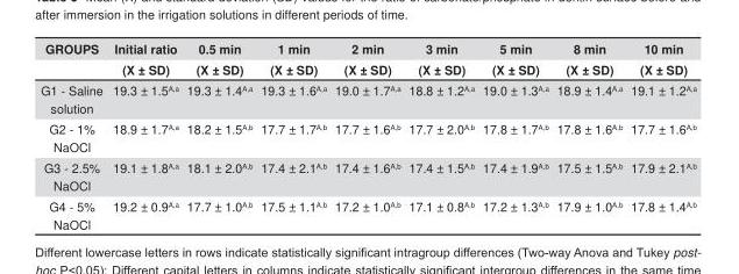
<table><thead><tr><td rowspan="2">GROUPS</td><td rowspan="2">Initial ratio (X ± SD)</td><td rowspan="2">0.5 min (X ± SD)</td><td rowspan="2">1 min (X ± SD)</td><td rowspan="2">2 min (X ± SD)</td><td rowspan="2">3 min (X ± SD)</td><td rowspan="2">5 min (X ± SD)</td><td rowspan="2">8 min (X ± SD)</td><td rowspan="2">10 min (X ± SD)</td></tr><tr></tr></thead><tbody><tr><td>G1 - Saline solution</td><td>19.3 ± 1.5<sup>A,a</sup></td><td>19.3 ± 1.4<sup>A,a</sup></td><td>19.3 ± 1.6<sup>A,a</sup></td><td>19.0 ± 1.7<sup>A,a</sup></td><td>18.8 ± 1.2<sup>A,a</sup></td><td>19.0 ± 1.3<sup>A,a</sup></td><td>18.9 ± 1.4<sup>A,a</sup></td><td>19.1 ± 1.2<sup>A,a</sup></td></tr><tr><td>G2 - 1% NaOCl</td><td>18.9 ± 1.7<sup>A,a</sup></td><td>18.2 ± 1.5<sup>A,b</sup></td><td>17.7 ± 1.7<sup>A,b</sup></td><td>17.7 ± 1.6<sup>A,b</sup></td><td>17.7 ± 2.0<sup>A,b</sup></td><td>17.8 ± 1.7<sup>A,b</sup></td><td>17.8 ± 1.6<sup>A,b</sup></td><td>17.7 ± 1.6<sup>A,b</sup></td></tr><tr><td>G3 - 2.5% NaOCl</td><td>19.1 ± 1.8<sup>A,a</sup></td><td>18.1 ± 2.0<sup>A,b</sup></td><td>17.4 ± 2.1<sup>A,b</sup></td><td>17.4 ± 1.6<sup>A,b</sup></td><td>17.4 ± 1.5<sup>A,b</sup></td><td>17.4 ± 1.9<sup>A,b</sup></td><td>17.5 ± 1.5<sup>A,b</sup></td><td>17.9 ± 2.1<sup>A,b</sup></td></tr><tr><td>G4 - 5% NaOCl</td><td>19.2 ± 0.9<sup>A,a</sup></td><td>17.7 ± 1.0<sup>A,b</sup></td><td>17.5 ± 1.1<sup>A,b</sup></td><td>17.2 ± 1.0<sup>A,b</sup></td><td>17.1 ± 0.8<sup>A,b</sup></td><td>17.2 ± 1.3<sup>A,b</sup></td><td>17.9 ± 1.0<sup>A,b</sup></td><td>17.8 ± 1.4<sup>A,b</sup></td></tr></tbody></table>